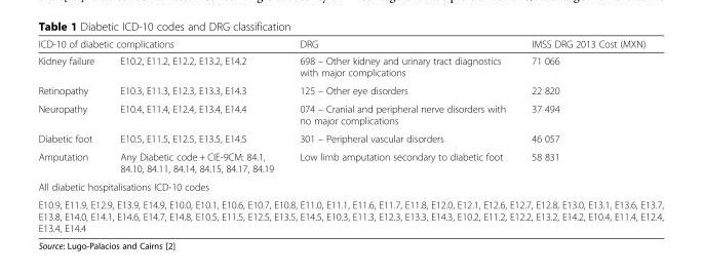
<table><thead><tr><td colspan="2">ICD-10 of diabetic complications</td><td rowspan="2">DRG 698 – Other kidney and urinary tract diagnostics with major complications</td><td rowspan="2">IMSS DRG 2013 Cost (MXN) 71 066</td></tr><tr><td>Kidney failure</td><td>E10.2, E11.2, E12.2, E13.2, E14.2</td></tr></thead><tbody><tr><td>Retinopathy</td><td>E10.3, E11.3, E12.3, E13.3, E14.3</td><td>125 – Other eye disorders</td><td>22 820</td></tr><tr><td>Neuropathy</td><td>E10.4, E11.4, E12.4, E13.4, E14.4</td><td>074 – Cranial and peripheral nerve disorders with no major complications</td><td>37 494</td></tr><tr><td>Diabetic foot</td><td>E10.5, E11.5, E12.5, E13.5, E14.5</td><td>301 – Peripheral vascular disorders</td><td>46 057</td></tr><tr><td>Amputation</td><td>Any Diabetic code + CIE-9CM: 84.1, 84.10, 84.11, 84.14, 84.15, 84.17, 84.19</td><td>Low limb amputation secondary to diabetic foot</td><td>58 831</td></tr><tr><td colspan="4">All diabetic hospitalisations ICD-10 codes</td></tr><tr><td colspan="4">E10.9, E11.9, E12.9, E13.9, E14.9, E10.0, E10.1, E10.6, E10.7, E10.8, E11.0, E11.1, E11.6, E11.7, E11.8, E12.0, E12.1, E12.6, E12.7, E12.8, E13.0, E13.1, E13.6, E13.7, E13.8, E14.0, E14.1, E14.6, E14.7, E14.8, E10.5, E11.5, E12.5, E13.5, E14.5, E10.3, E11.3, E12.3, E13.3, E14.3, E10.2, E11.2, E12.2, E13.2, E14.2, E10.4, E11.4, E12.4, E13.4, E14.4</td></tr></tbody></table>